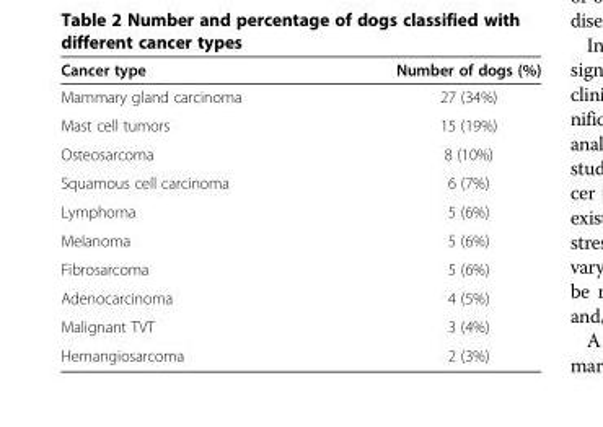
<table><thead><tr><td>Cancer type</td><td>Number of dogs (%)</td></tr></thead><tbody><tr><td>Mammary gland carcinoma</td><td>27 (34%)</td></tr><tr><td>Mast cell tumors</td><td>15 (19%)</td></tr><tr><td>Osteosarcoma</td><td>8 (10%)</td></tr><tr><td>Squamous cell carcinoma</td><td>6 (7%)</td></tr><tr><td>Lymphoma</td><td>5 (6%)</td></tr><tr><td>Melanoma</td><td>5 (6%)</td></tr><tr><td>Fibrosarcoma</td><td>5 (6%)</td></tr><tr><td>Adenocarcinoma</td><td>4 (5%)</td></tr><tr><td>Malignant TVT</td><td>3 (4%)</td></tr><tr><td>Hemangiosarcoma</td><td>2 (3%)</td></tr></tbody></table>